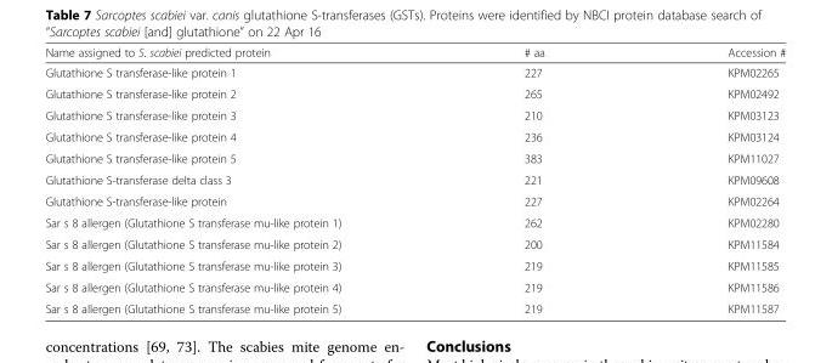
<table><thead><tr><td>Name assigned to S. scabiei predicted protein</td><td># aa</td><td>Accession #</td></tr></thead><tbody><tr><td>Glutathione S transferase-like protein 1</td><td>227</td><td>KPM02265</td></tr><tr><td>Glutathione S transferase-like protein 2</td><td>265</td><td>KPM02492</td></tr><tr><td>Glutathione S transferase-like protein 3</td><td>210</td><td>KPM03123</td></tr><tr><td>Glutathione S transferase-like protein 4</td><td>236</td><td>KPM03124</td></tr><tr><td>Glutathione S transferase-like protein 5</td><td>383</td><td>KPM11027</td></tr><tr><td>Glutathione S-transferase delta class 3</td><td>221</td><td>KPM09608</td></tr><tr><td>Glutathione S-transferase-like protein</td><td>227</td><td>KPM02264</td></tr><tr><td>Sar s 8 allergen (Glutathione S transferase mu-like protein 1)</td><td>262</td><td>KPM02280</td></tr><tr><td>Sar s 8 allergen (Glutathione S transferase mu-like protein 2)</td><td>200</td><td>KPM11584</td></tr><tr><td>Sar s 8 allergen (Glutathione S transferase mu-like protein 3)</td><td>219</td><td>KPM11585</td></tr><tr><td>Sar s 8 allergen (Glutathione S transferase mu-like protein 4)</td><td>219</td><td>KPM11586</td></tr><tr><td>Sar s 8 allergen (Glutathione S transferase mu-like protein 5)</td><td>219</td><td>KPM11587</td></tr></tbody></table>